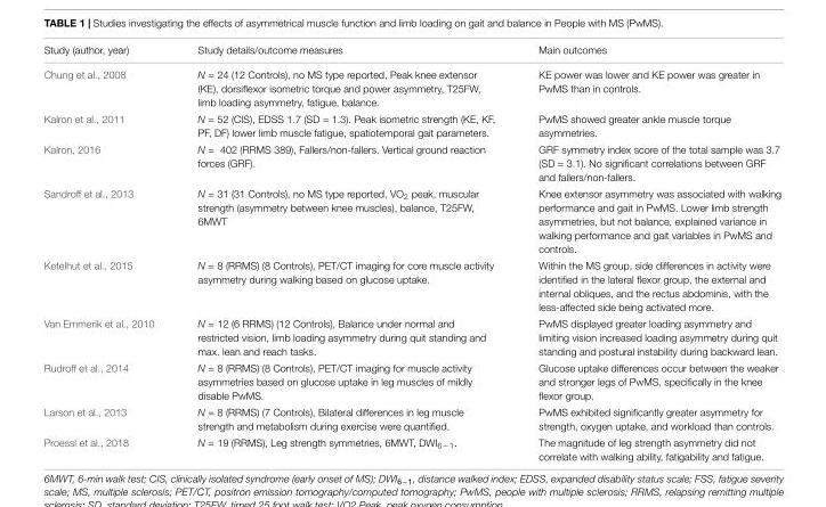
<table><thead><tr><td>Study (author, year)</td><td>Study details/outcome measures</td><td>Main outcomes</td></tr></thead><tbody><tr><td>Chung et al., 2008</td><td>N = 24 (12 Controls), no MS type reported, Peak knee extensor (KE), dorsiflexor isometric torque and power asymmetry, T25FW, limb loading asymmetry, fatigue, balance.</td><td>KE power was lower and KE power was greater in PwMS than in controls.</td></tr><tr><td>Kalron et al., 2011</td><td>N = 52 (CIS), EDSS 1.7 (SD = 1.3). Peak isometric strength (KE, KF, PF, DF) lower limb muscle fatigue, spatiotemporal gait parameters.</td><td>PwMS showed greater ankle muscle torque asymmetries.</td></tr><tr><td>Kalron, 2016</td><td>N = 402 (RRMS 389), Fallers/non-fallers. Vertical ground reaction forces (GRF).</td><td>GRF symmetry index score of the total sample was 3.7 (SD = 3.1). No significant correlations between GRF and fallers/non-fallers.</td></tr><tr><td>Sandroff et al., 2013</td><td>N = 31 (31 Controls), no MS type reported, VO<sub>2</sub> peak, muscular strength (asymmetry between knee muscles), balance, T25FW, 6MWT</td><td>Knee extensor asymmetry was associated with walking performance and gait in PwMS. Lower limb strength asymmetries, but not balance, explained variance in walking performance and gait variables in PwMS and controls.</td></tr><tr><td>Ketelhut et al., 2015</td><td>N = 8 (RRMS) (8 Controls), PET/CT imaging for core muscle activity asymmetry during walking based on glucose uptake.</td><td>Within the MS group, side differences in activity were identified in the lateral flexor group, the external and internal obliques, and the rectus abdominis, with the less-affected side being activated more.</td></tr><tr><td>Van Emmerik et al., 2010</td><td>N = 12 (6 RRMS) (12 Controls), Balance under normal and restricted vision, limb loading asymmetry during quit standing and max. lean and reach tasks.</td><td>PwMS displayed greater loading asymmetry and limiting vision increased loading asymmetry during quit standing and postural instability during backward lean.</td></tr><tr><td>Rudroff et al., 2014</td><td>N = 8 (RRMS) (8 Controls), PET/CT imaging for muscle activity asymmetries based on glucose uptake in leg muscles of mildly disable PwMS.</td><td>Glucose uptake differences occur between the weaker and stronger legs of PwMS, specifically in the knee flexor group.</td></tr><tr><td>Larson et al., 2013</td><td>N = 8 (RRMS) (7 Controls), Bilateral differences in leg muscle strength and metabolism during exercise were quantified.</td><td>PwMS exhibited significantly greater asymmetry for strength, oxygen uptake, and workload than controls.</td></tr><tr><td>Proessl et al., 2018</td><td>N = 19 (RRMS), Leg strength symmetries, 6MWT, DWI<sub>6−1</sub>.</td><td>The magnitude of leg strength asymmetry did not correlate with walking ability, fatigability and fatigue.</td></tr></tbody></table>